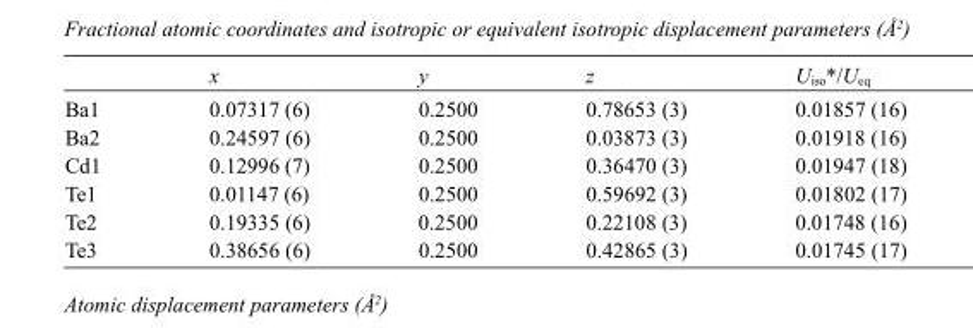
<table><thead><tr><td></td><td>x</td><td>y</td><td>z</td><td>U<sub>iso</sub>*/U<sub>eq</sub></td></tr></thead><tbody><tr><td>Ba1</td><td>0.07317 (6)</td><td>0.2500</td><td>0.78653 (3)</td><td>0.01857 (16)</td></tr><tr><td>Ba2</td><td>0.24597 (6)</td><td>0.2500</td><td>0.03873 (3)</td><td>0.01918 (16)</td></tr><tr><td>Cd1</td><td>0.12996 (7)</td><td>0.2500</td><td>0.36470 (3)</td><td>0.01947 (18)</td></tr><tr><td>Te1</td><td>0.01147 (6)</td><td>0.2500</td><td>0.59692 (3)</td><td>0.01802 (17)</td></tr><tr><td>Te2</td><td>0.19335 (6)</td><td>0.2500</td><td>0.22108 (3)</td><td>0.01748 (16)</td></tr><tr><td>Te3</td><td>0.38656 (6)</td><td>0.2500</td><td>0.42865 (3)</td><td>0.01745 (17)</td></tr></tbody></table>